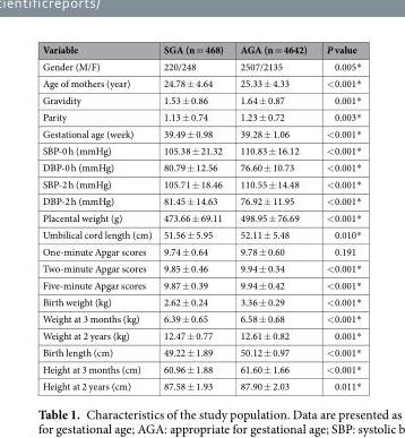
<table><thead><tr><td>Variable</td><td>SGA (n = 468)</td><td>AGA (n = 4642)</td><td>P value</td></tr></thead><tbody><tr><td>Gender (M/F)</td><td>220/248</td><td>2507/2135</td><td>0.005*</td></tr><tr><td>Age of mothers (year)</td><td>24.78 ± 4.64</td><td>25.33 ± 4.33</td><td>&lt;0.001*</td></tr><tr><td>Gravidity</td><td>1.53 ± 0.86</td><td>1.64 ± 0.87</td><td>0.001*</td></tr><tr><td>Parity</td><td>1.13 ± 0.74</td><td>1.23 ± 0.72</td><td>0.003*</td></tr><tr><td>Gestational age (week)</td><td>39.49 ± 0.98</td><td>39.28 ± 1.06</td><td>&lt;0.001*</td></tr><tr><td>SBP-0 h (mmHg)</td><td>105.38 ± 21.32</td><td>110.83 ± 16.12</td><td>&lt;0.001*</td></tr><tr><td>DBP-0 h (mmHg)</td><td>80.79 ± 12.56</td><td>76.60 ± 10.73</td><td>&lt;0.001*</td></tr><tr><td>SBP-2 h (mmHg)</td><td>105.71 ± 18.46</td><td>110.55 ± 14.48</td><td>&lt;0.001*</td></tr><tr><td>DBP-2 h (mmHg)</td><td>81.45 ± 14.63</td><td>76.92 ± 11.95</td><td>&lt;0.001*</td></tr><tr><td>Placental weight (g)</td><td>473.66 ± 69.11</td><td>498.95 ± 76.69</td><td>&lt;0.001*</td></tr><tr><td>Umbilical cord length (cm)</td><td>51.56 ± 5.95</td><td>52.11 ± 5.48</td><td>0.010*</td></tr><tr><td>One-minute Apgar scores</td><td>9.74 ± 0.64</td><td>9.78 ± 0.60</td><td>0.191</td></tr><tr><td>Two-minute Apgar scores</td><td>9.85 ± 0.46</td><td>9.94 ± 0.34</td><td>&lt;0.001*</td></tr><tr><td>Five-minute Apgar scores</td><td>9.87 ± 0.39</td><td>9.94 ± 0.42</td><td>&lt;0.001*</td></tr><tr><td>Birth weight (kg)</td><td>2.62 ± 0.24</td><td>3.36 ± 0.29</td><td>&lt;0.001*</td></tr><tr><td>Weight at 3 months (kg)</td><td>6.39 ± 0.65</td><td>6.58 ± 0.68</td><td>&lt;0.001*</td></tr><tr><td>Weight at 2 years (kg)</td><td>12.47 ± 0.77</td><td>12.61 ± 0.82</td><td>0.001*</td></tr><tr><td>Birth length (cm)</td><td>49.22 ± 1.89</td><td>50.12 ± 0.97</td><td>&lt;0.001*</td></tr><tr><td>Height at 3 months (cm)</td><td>60.96 ± 1.88</td><td>61.60 ± 1.66</td><td>&lt;0.001*</td></tr><tr><td>Height at 2 years (cm)</td><td>87.58 ± 1.93</td><td>87.90 ± 2.03</td><td>0.011*</td></tr></tbody></table>